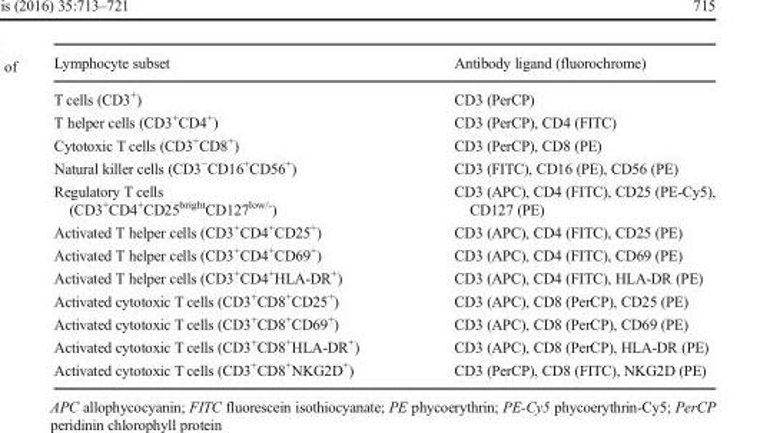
<table><thead><tr><td>Lymphocyte subset</td><td>Antibody ligand (fluorochrome)</td></tr></thead><tbody><tr><td>T cells (CD3<sup>+</sup>)</td><td>CD3 (PerCP)</td></tr><tr><td>T helper cells (CD3<sup>+</sup>CD4<sup>+</sup>)</td><td>CD3 (PerCP), CD4 (FITC)</td></tr><tr><td>Cytotoxic T cells (CD3<sup>+</sup>CD8<sup>+</sup>)</td><td>CD3 (PerCP), CD8 (PE)</td></tr><tr><td>Natural killer cells (CD3<sup>−</sup>CD16<sup>+</sup>CD56<sup>+</sup>)</td><td>CD3 (FITC), CD16 (PE), CD56 (PE)</td></tr><tr><td>Regulatory T cells (CD3<sup>+</sup>CD4<sup>+</sup>CD25<sup>bright</sup>CD127<sup>low/-</sup>)</td><td>CD3 (APC), CD4 (FITC), CD25 (PE-Cy5), CD127 (PE)</td></tr><tr><td>Activated T helper cells (CD3<sup>+</sup>CD4<sup>+</sup>CD25<sup>+</sup>)</td><td>CD3 (APC), CD4 (FITC), CD25 (PE)</td></tr><tr><td>Activated T helper cells (CD3<sup>+</sup>CD4<sup>+</sup>CD69<sup>+</sup>)</td><td>CD3 (APC), CD4 (FITC), CD69 (PE)</td></tr><tr><td>Activated T helper cells (CD3<sup>+</sup>CD4<sup>+</sup>HLA-DR<sup>+</sup>)</td><td>CD3 (APC), CD4 (FITC), HLA-DR (PE)</td></tr><tr><td>Activated cytotoxic T cells (CD3<sup>+</sup>CD8<sup>+</sup>CD25<sup>+</sup>)</td><td>CD3 (APC), CD8 (PerCP), CD25 (PE)</td></tr><tr><td>Activated cytotoxic T cells (CD3<sup>+</sup>CD8<sup>+</sup>CD69<sup>+</sup>)</td><td>CD3 (APC), CD8 (PerCP), CD69 (PE)</td></tr><tr><td>Activated cytotoxic T cells (CD3<sup>+</sup>CD8<sup>+</sup>HLA-DR<sup>+</sup>)</td><td>CD3 (APC), CD8 (PerCP), HLA-DR (PE)</td></tr><tr><td>Activated cytotoxic T cells (CD3<sup>+</sup>CD8<sup>+</sup>NKG2D<sup>+</sup>)</td><td>CD3 (PerCP), CD8 (FITC), NKG2D (PE)</td></tr></tbody></table>